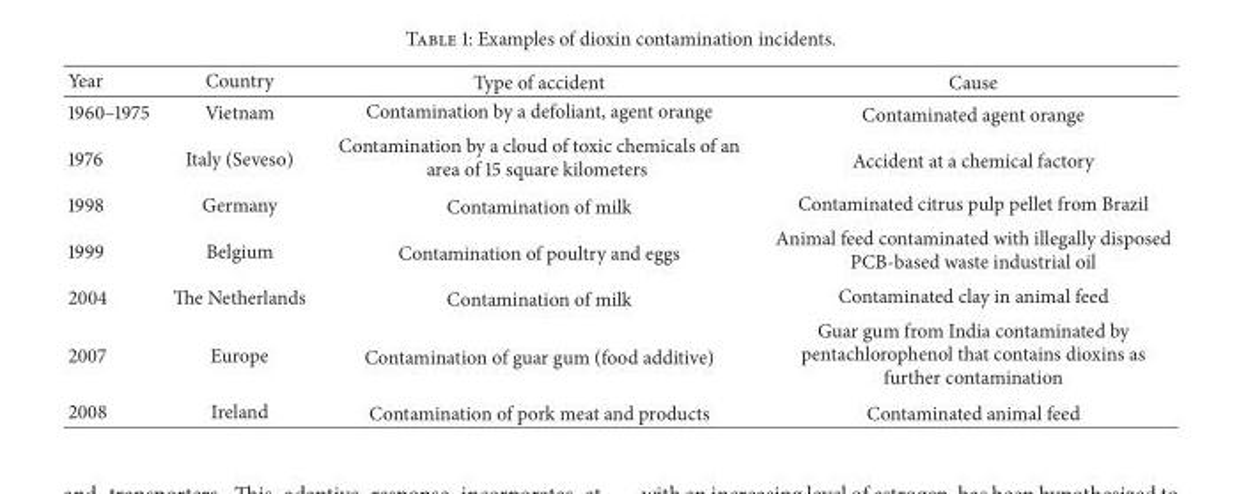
<table><thead><tr><td>Year</td><td>Country</td><td>Type of accident</td><td>Cause</td></tr></thead><tbody><tr><td>1960–1975</td><td>Vietnam</td><td>Contamination by a defoliant, agent orange</td><td>Contaminated agent orange</td></tr><tr><td>1976</td><td>Italy (Seveso)</td><td>Contamination by a cloud of toxic chemicals of an area of 15 square kilometers</td><td>Accident at a chemical factory</td></tr><tr><td>1998</td><td>Germany</td><td>Contamination of milk</td><td>Contaminated citrus pulp pellet from Brazil</td></tr><tr><td>1999</td><td>Belgium</td><td>Contamination of poultry and eggs</td><td>Animal feed contaminated with illegally disposed PCB-based waste industrial oil</td></tr><tr><td>2004</td><td>The Netherlands</td><td>Contamination of milk</td><td>Contaminated clay in animal feed</td></tr><tr><td>2007</td><td>Europe</td><td>Contamination of guar gum (food additive)</td><td>Guar gum from India contaminated by pentachlorophenol that contains dioxins as further contamination</td></tr><tr><td>2008</td><td>Ireland</td><td>Contamination of pork meat and products</td><td>Contaminated animal feed</td></tr></tbody></table>